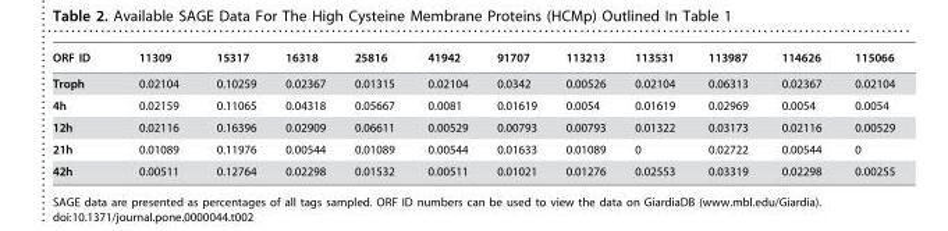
<table><thead><tr><td>ORF ID</td><td>11309</td><td>15317</td><td>16318</td><td>25816</td><td>41942</td><td>91707</td><td>113213</td><td>113531</td><td>113987</td><td>114626</td><td>115066</td></tr></thead><tbody><tr><td>Troph</td><td>0.02104</td><td>0.10259</td><td>0.02367</td><td>0.01315</td><td>0.02104</td><td>0.0342</td><td>0.00526</td><td>0.02104</td><td>0.06313</td><td>0.02367</td><td>0.02104</td></tr><tr><td>4h</td><td>0.02159</td><td>0.11065</td><td>0.04318</td><td>0.05667</td><td>0.0081</td><td>0.01619</td><td>0.0054</td><td>0.01619</td><td>0.02969</td><td>0.0054</td><td>0.0054</td></tr><tr><td>12h</td><td>0.02116</td><td>0.16396</td><td>0.02909</td><td>0.06611</td><td>0.00529</td><td>0.00793</td><td>0.00793</td><td>0.01322</td><td>0.03173</td><td>0.02116</td><td>0.00529</td></tr><tr><td>21h</td><td>0.01089</td><td>0.11976</td><td>0.00544</td><td>0.01089</td><td>0.00544</td><td>0.01633</td><td>0.01089</td><td>0</td><td>0.02722</td><td>0.00544</td><td>0</td></tr><tr><td>42h</td><td>0.00511</td><td>0.12764</td><td>0.02298</td><td>0.01532</td><td>0.00511</td><td>0.01021</td><td>0.01276</td><td>0.02553</td><td>0.03319</td><td>0.02298</td><td>0.00255</td></tr></tbody></table>